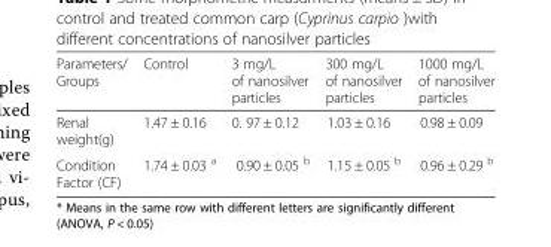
<table><thead><tr><td>Parameters/ Groups</td><td>Control</td><td>3 mg/L of nanosilver particles</td><td>300 mg/L of nanosilver particles</td><td>1000 mg/L of nanosilver particles</td></tr></thead><tbody><tr><td>Renal weight(g)</td><td>1.47 ± 0.16</td><td>0. 97 ± 0.12</td><td>1.03 ± 0.16</td><td>0.98 ± 0.09</td></tr><tr><td>Condition Factor (CF)</td><td>1.74 ± 0.03 a</td><td>0.90 ± 0.05 b</td><td>1.15 ± 0.05 b</td><td>0.96 ± 0.29 b</td></tr></tbody></table>